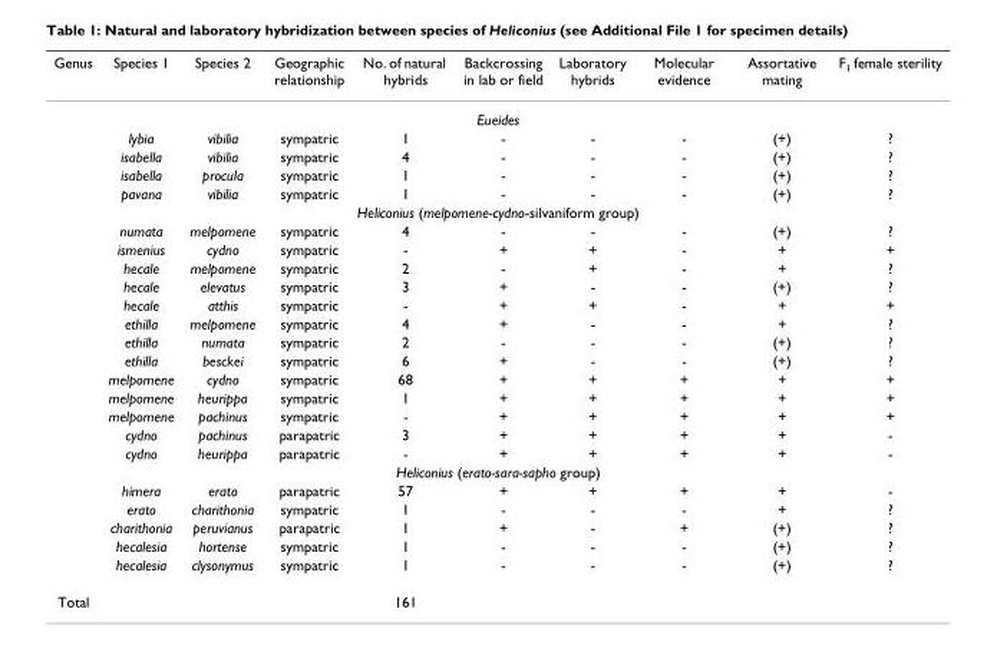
<table><thead><tr><td>Genus</td><td>Species 1</td><td>Species 2</td><td>Geographic relationship</td><td>No. of natural hybrids</td><td>Backcrossing in lab or field</td><td>Laboratory hybrids</td><td>Molecular evidence</td><td>Assortative mating</td><td>F<sub>1</sub> female sterility</td></tr></thead><tbody><tr><td colspan="10">Eueides</td></tr><tr><td></td><td>lybia</td><td>vibilia</td><td>sympatric</td><td>1</td><td>-</td><td>-</td><td>-</td><td>(+)</td><td>?</td></tr><tr><td></td><td>isabella</td><td>vibilia</td><td>sympatric</td><td>4</td><td>-</td><td>-</td><td>-</td><td>(+)</td><td>?</td></tr><tr><td></td><td>isabella</td><td>procula</td><td>sympatric</td><td>1</td><td>-</td><td>-</td><td>-</td><td>(+)</td><td>?</td></tr><tr><td></td><td>pavana</td><td>vibilia</td><td>sympatric</td><td>1</td><td>-</td><td>-</td><td>-</td><td>(+)</td><td>?</td></tr><tr><td colspan="10">Heliconius (melpomene-cydno-silvaniform group)</td></tr><tr><td></td><td>numata</td><td>melpomene</td><td>sympatric</td><td>4</td><td>-</td><td>-</td><td>-</td><td>(+)</td><td>?</td></tr><tr><td></td><td>ismenius</td><td>cydno</td><td>sympatric</td><td>-</td><td>+</td><td>+</td><td>-</td><td>+</td><td>+</td></tr><tr><td></td><td>hecale</td><td>melpomene</td><td>sympatric</td><td>2</td><td>-</td><td>+</td><td>-</td><td>+</td><td>?</td></tr><tr><td></td><td>hecale</td><td>elevatus</td><td>sympatric</td><td>3</td><td>+</td><td>-</td><td>-</td><td>(+)</td><td>?</td></tr><tr><td></td><td>hecale</td><td>atthis</td><td>sympatric</td><td>-</td><td>+</td><td>+</td><td>-</td><td>+</td><td>+</td></tr><tr><td></td><td>ethilla</td><td>melpomene</td><td>sympatric</td><td>4</td><td>+</td><td>-</td><td>-</td><td>+</td><td>?</td></tr><tr><td></td><td>ethilla</td><td>numata</td><td>sympatric</td><td>2</td><td>-</td><td>-</td><td>-</td><td>(+)</td><td>?</td></tr><tr><td></td><td>ethilla</td><td>besckei</td><td>sympatric</td><td>6</td><td>+</td><td>-</td><td>-</td><td>(+)</td><td>?</td></tr><tr><td></td><td>melpomene</td><td>cydno</td><td>sympatric</td><td>68</td><td>+</td><td>+</td><td>+</td><td>+</td><td>+</td></tr><tr><td></td><td>melpomene</td><td>heurippa</td><td>sympatric</td><td>1</td><td>+</td><td>+</td><td>+</td><td>+</td><td>+</td></tr><tr><td></td><td>melpomene</td><td>pachinus</td><td>sympatric</td><td>-</td><td>+</td><td>+</td><td>+</td><td>+</td><td>+</td></tr><tr><td></td><td>cydno</td><td>pachinus</td><td>parapatric</td><td>3</td><td>+</td><td>+</td><td>+</td><td>+</td><td>-</td></tr><tr><td></td><td>cydno</td><td>heurippa</td><td>parapatric</td><td>-</td><td>+</td><td>+</td><td>+</td><td>+</td><td>-</td></tr><tr><td colspan="10">Heliconius (erato-sara-sapho group)</td></tr><tr><td></td><td>himera</td><td>erato</td><td>parapatric</td><td>57</td><td>+</td><td>+</td><td>+</td><td>+</td><td>-</td></tr><tr><td></td><td>erato</td><td>charithonia</td><td>sympatric</td><td>1</td><td>-</td><td>-</td><td>-</td><td>+</td><td>?</td></tr><tr><td></td><td>charithonia</td><td>peruvianus</td><td>parapatric</td><td>1</td><td>+</td><td>-</td><td>+</td><td>(+)</td><td>?</td></tr><tr><td></td><td>hecalesia</td><td>hortense</td><td>sympatric</td><td>1</td><td>-</td><td>-</td><td>-</td><td>(+)</td><td>?</td></tr><tr><td></td><td>hecalesia</td><td>clysonymus</td><td>sympatric</td><td>1</td><td>-</td><td>-</td><td>-</td><td>(+)</td><td>?</td></tr><tr><td>Total</td><td></td><td></td><td></td><td>161</td><td></td><td></td><td></td><td></td><td></td></tr></tbody></table>